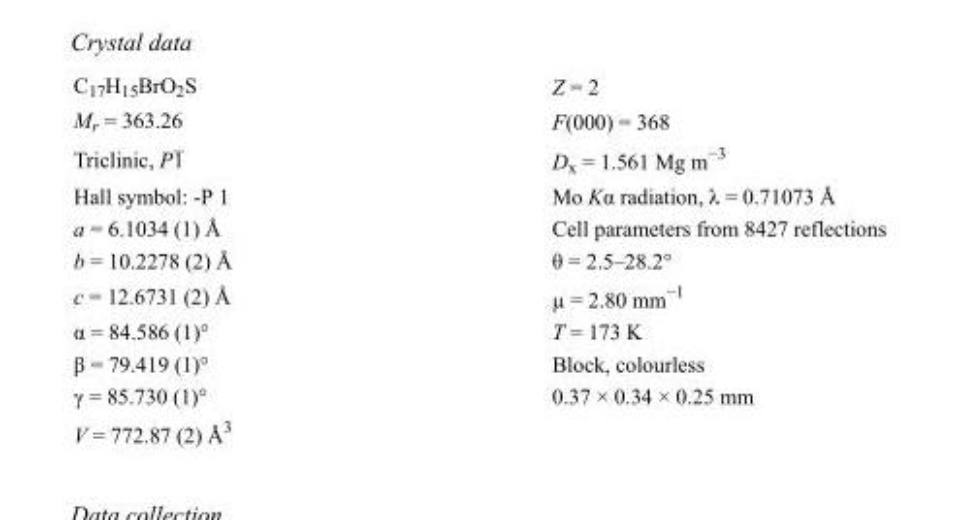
<table><tbody><tr><td>C<sub>17</sub>H<sub>15</sub>BrO<sub>2</sub>S</td><td>Z = 2</td></tr><tr><td>M<sub>r</sub> = 363.26</td><td>F(000) = 368</td></tr><tr><td>Triclinic, P1</td><td>D<sub>x</sub> = 1.561 Mg m<sup>−3</sup></td></tr><tr><td>Hall symbol: -P 1</td><td>Mo Kα radiation, λ = 0.71073 Å</td></tr><tr><td>a = 6.1034 (1) Å</td><td>Cell parameters from 8427 reflections</td></tr><tr><td>b = 10.2278 (2) Å</td><td>θ = 2.5–28.2°</td></tr><tr><td>c = 12.6731 (2) Å</td><td>µ = 2.80 mm<sup>−1</sup></td></tr><tr><td>α = 84.586 (1)°</td><td>T = 173 K</td></tr><tr><td>β = 79.419 (1)°</td><td>Block, colourless</td></tr><tr><td>γ = 85.730 (1)°</td><td>0.37 × 0.34 × 0.25 mm</td></tr><tr><td>V = 772.87 (2) Å<sup>3</sup></td><td></td></tr></tbody></table>